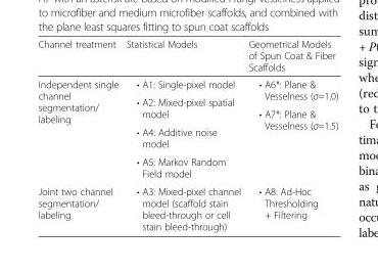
<table><thead><tr><td>Channel treatment</td><td>Statistical Models</td><td>Geometrical Models of Spun Coat &amp; Fiber Scaffolds</td></tr></thead><tbody><tr><td rowspan="5">Independent single channel segmentation/ labeling</td><td>• A1: Single-pixel model</td><td rowspan="2">• A6*: Plane &amp; Vesselness (σ=1.0)</td></tr><tr><td rowspan="2">• A2: Mixed-pixel spatial model</td></tr><tr><td rowspan="3">• A7*: Plane &amp; Vesselness (σ=1.5)</td></tr><tr><td>• A4: Additive noise model</td></tr><tr><td>• A5: Markov Random Field model</td></tr><tr><td>Joint two channel segmentation/ labeling</td><td>• A3: Mixed-pixel channel model (scaffold stain bleed-through or cell stain bleed-through)</td><td>• A8: Ad-Hoc Thresholding + Filtering</td></tr></tbody></table>